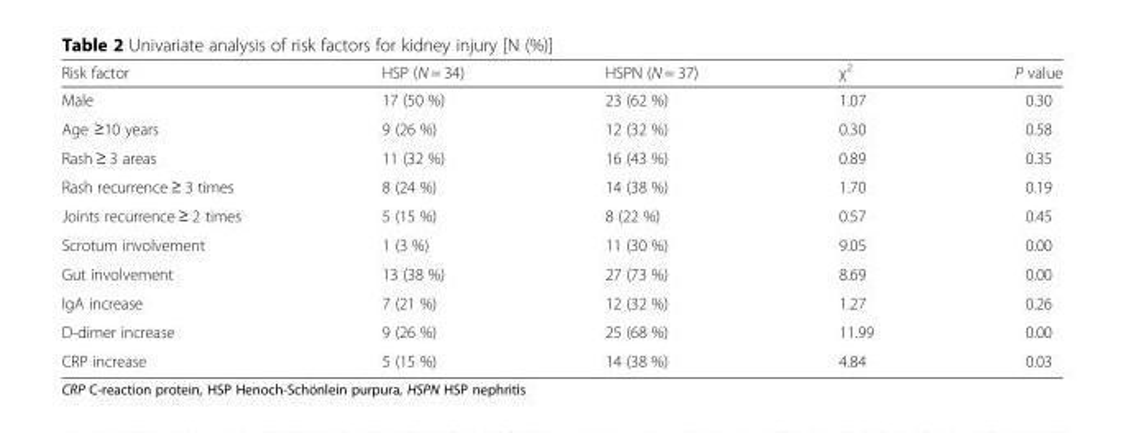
<table><thead><tr><td>Risk factor</td><td>HSP (N = 34)</td><td>HSPN (N = 37)</td><td>χ<sup>2</sup></td><td>P value</td></tr></thead><tbody><tr><td>Male</td><td>17 (50 %)</td><td>23 (62 %)</td><td>1.07</td><td>0.30</td></tr><tr><td>Age ≥10 years</td><td>9 (26 %)</td><td>12 (32 %)</td><td>0.30</td><td>0.58</td></tr><tr><td>Rash ≥ 3 areas</td><td>11 (32 %)</td><td>16 (43 %)</td><td>0.89</td><td>0.35</td></tr><tr><td>Rash recurrence ≥ 3 times</td><td>8 (24 %)</td><td>14 (38 %)</td><td>1.70</td><td>0.19</td></tr><tr><td>Joints recurrence ≥ 2 times</td><td>5 (15 %)</td><td>8 (22 %)</td><td>0.57</td><td>0.45</td></tr><tr><td>Scrotum involvement</td><td>1 (3 %)</td><td>11 (30 %)</td><td>9.05</td><td>0.00</td></tr><tr><td>Gut involvement</td><td>13 (38 %)</td><td>27 (73 %)</td><td>8.69</td><td>0.00</td></tr><tr><td>IgA increase</td><td>7 (21 %)</td><td>12 (32 %)</td><td>1.27</td><td>0.26</td></tr><tr><td>D-dimer increase</td><td>9 (26 %)</td><td>25 (68 %)</td><td>11.99</td><td>0.00</td></tr><tr><td>CRP increase</td><td>5 (15 %)</td><td>14 (38 %)</td><td>4.84</td><td>0.03</td></tr></tbody></table>